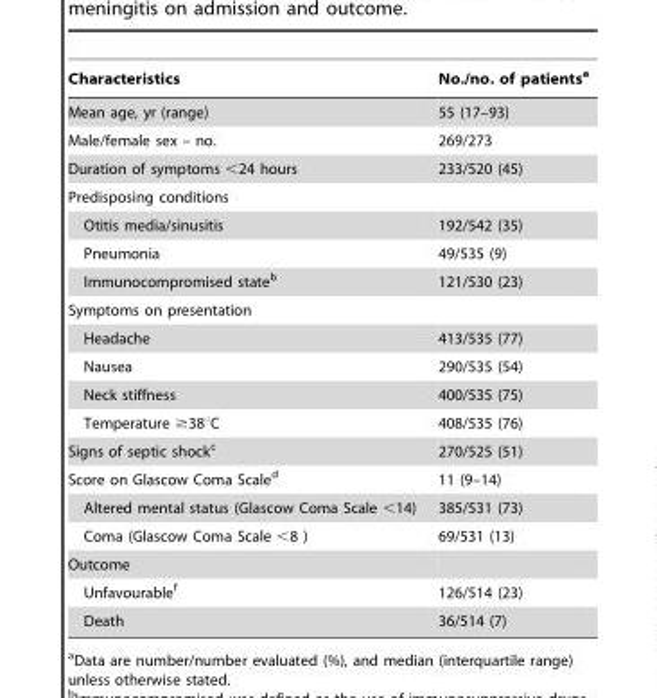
<table><thead><tr><td>Characteristics</td><td>No./no. of patients<sup>a</sup></td></tr></thead><tbody><tr><td>Mean age, yr (range)</td><td>55 (17–93)</td></tr><tr><td>Male/female sex – no.</td><td>269/273</td></tr><tr><td>Duration of symptoms &lt;24 hours</td><td>233/520 (45)</td></tr><tr><td colspan="2">Predisposing conditions</td></tr><tr><td>Otitis media/sinusitis</td><td>192/542 (35)</td></tr><tr><td>Pneumonia</td><td>49/535 (9)</td></tr><tr><td>Immunocompromised state<sup>b</sup></td><td>121/530 (23)</td></tr><tr><td colspan="2">Symptoms on presentation</td></tr><tr><td>Headache</td><td>413/535 (77)</td></tr><tr><td>Nausea</td><td>290/535 (54)</td></tr><tr><td>Neck stiffness</td><td>400/535 (75)</td></tr><tr><td>Temperature ≥38°C</td><td>408/535 (76)</td></tr><tr><td>Signs of septic shock<sup>c</sup></td><td>270/525 (51)</td></tr><tr><td>Score on Glascow Coma Scale<sup>d</sup></td><td>11 (9–14)</td></tr><tr><td>Altered mental status (Glascow Coma Scale &lt;14)</td><td>385/531 (73)</td></tr><tr><td>Coma (Glascow Coma Scale &lt;8 )</td><td>69/531 (13)</td></tr><tr><td colspan="2">Outcome</td></tr><tr><td>Unfavourable<sup>f</sup></td><td>126/514 (23)</td></tr><tr><td>Death</td><td>36/514 (7)</td></tr></tbody></table>